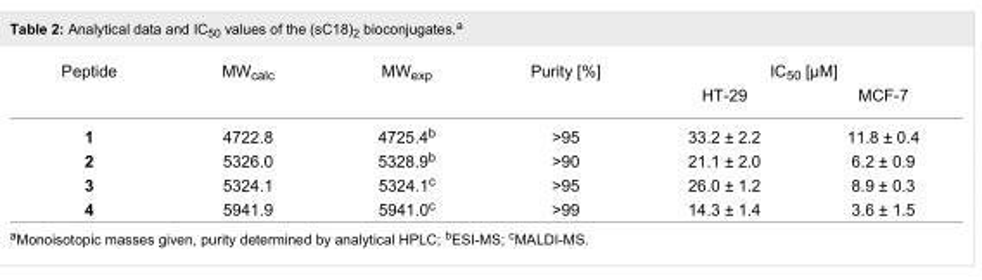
<table><tbody><tr><td rowspan="2">Peptide</td><td rowspan="2">MW<sub>calc</sub></td><td rowspan="2">MW<sub>exp</sub></td><td rowspan="2">Purity [%]</td><td colspan="2">IC<sub>50</sub> [µM]</td></tr><tr><td>HT-29</td><td>MCF-7</td></tr><tr><td>1</td><td>4722.8</td><td>4725.4<sup>b</sup></td><td>&gt;95</td><td>33.2 ± 2.2</td><td>11.8 ± 0.4</td></tr><tr><td>2</td><td>5326.0</td><td>5328.9<sup>b</sup></td><td>&gt;90</td><td>21.1 ± 2.0</td><td>6.2 ± 0.9</td></tr><tr><td>3</td><td>5324.1</td><td>5324.1<sup>c</sup></td><td>&gt;95</td><td>26.0 ± 1.2</td><td>8.9 ± 0.3</td></tr><tr><td>4</td><td>5941.9</td><td>5941.0<sup>c</sup></td><td>&gt;99</td><td>14.3 ± 1.4</td><td>3.6 ± 1.5</td></tr></tbody></table>